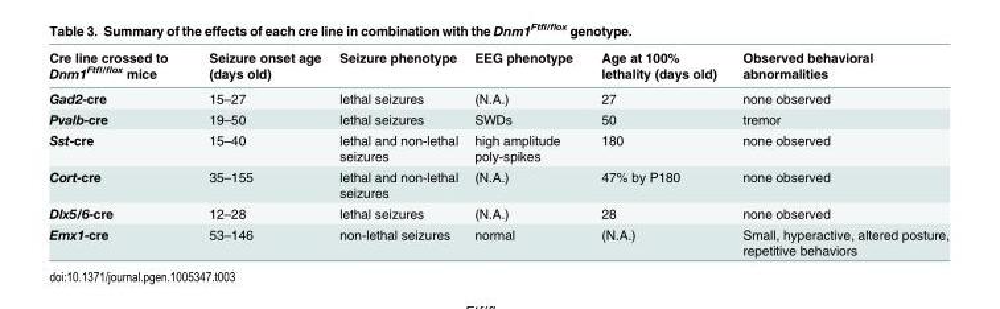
<table><thead><tr><td>Cre line crossed to Dnm1<sup>Ftfl/flox</sup> mice</td><td>Seizure onset age (days old)</td><td>Seizure phenotype</td><td>EEG phenotype</td><td>Age at 100% lethality (days old)</td><td>Observed behavioral abnormalities</td></tr></thead><tbody><tr><td>Gad2-cre</td><td>15–27</td><td>lethal seizures</td><td>(N.A.)</td><td>27</td><td>none observed</td></tr><tr><td>Pvalb-cre</td><td>19–50</td><td>lethal seizures</td><td>SWDs</td><td>50</td><td>tremor</td></tr><tr><td>Sst-cre</td><td>15–40</td><td>lethal and non-lethal seizures</td><td>high amplitude poly-spikes</td><td>180</td><td>none observed</td></tr><tr><td>Cort-cre</td><td>35–155</td><td>lethal and non-lethal seizures</td><td>(N.A.)</td><td>47% by P180</td><td>none observed</td></tr><tr><td>Dlx5/6-cre</td><td>12–28</td><td>lethal seizures</td><td>(N.A.)</td><td>28</td><td>none observed</td></tr><tr><td>Emx1-cre</td><td>53–146</td><td>non-lethal seizures</td><td>normal</td><td>(N.A.)</td><td>Small, hyperactive, altered posture, repetitive behaviors</td></tr></tbody></table>